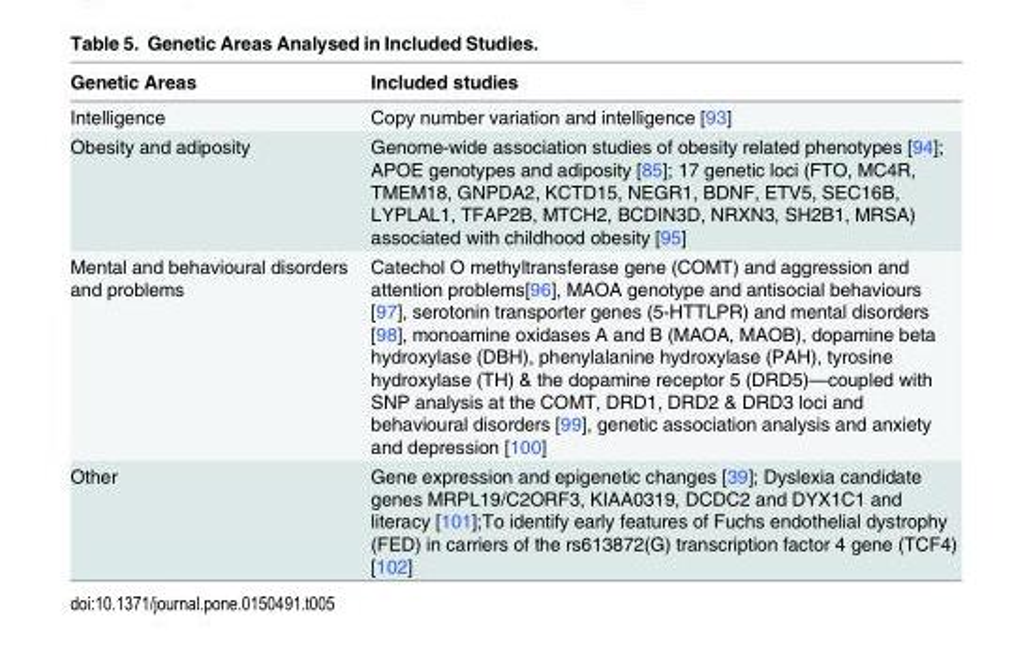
<table><thead><tr><td>Genetic Areas</td><td>Included studies</td></tr></thead><tbody><tr><td>Intelligence</td><td>Copy number variation and intelligence [93]</td></tr><tr><td>Obesity and adiposity</td><td>Genome-wide association studies of obesity related phenotypes [94]; APOE genotypes and adiposity [85]; 17 genetic loci (FTO, MC4R, TMEM18, GNPDA2, KCTD15, NEGR1, BDNF, ETV5, SEC16B, LYPLAL1, TFAP2B, MTCH2, BCDIN3D, NRXN3, SH2B1, MRSA) associated with childhood obesity [95]</td></tr><tr><td>Mental and behavioural disorders and problems</td><td>Catechol O methyltransferase gene (COMT) and aggression and attention problems[96], MAOA genotype and antisocial behaviours [97], serotonin transporter genes (5-HTTLPR) and mental disorders [98], monoamine oxidases A and B (MAOA, MAOB), dopamine beta hydroxylase (DBH), phenylalanine hydroxylase (PAH), tyrosine hydroxylase (TH) &amp; the dopamine receptor 5 (DRD5)—coupled with SNP analysis at the COMT, DRD1, DRD2 &amp; DRD3 loci and behavioural disorders [99], genetic association analysis and anxiety and depression [100]</td></tr><tr><td>Other</td><td>Gene expression and epigenetic changes [39]; Dyslexia candidate genes MRPL19/C2ORF3, KIAA0319, DCDC2 and DYX1C1 and literacy [101];To identify early features of Fuchs endothelial dystrophy (FED) in carriers of the rs613872(G) transcription factor 4 gene (TCF4) [102]</td></tr></tbody></table>